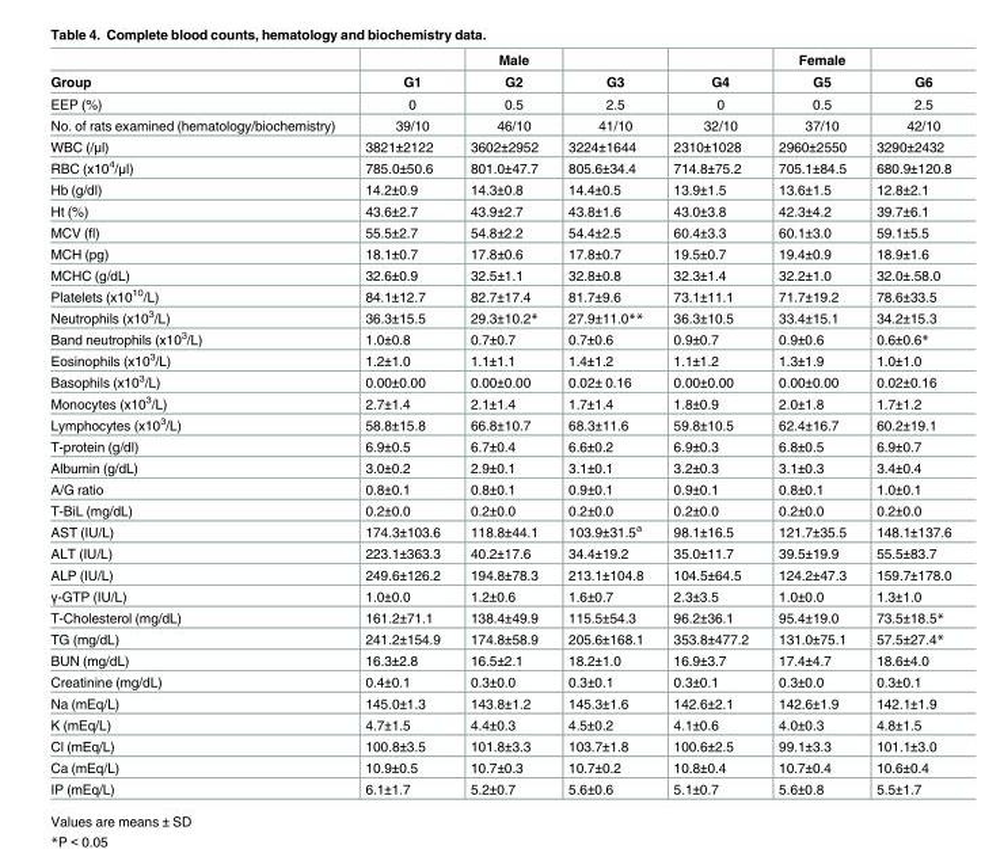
<table><thead><tr><td rowspan="2">Group</td><td rowspan="2">G1</td><td rowspan="2">Male G2</td><td rowspan="2">G3</td><td rowspan="2">G4</td><td rowspan="2">Female G5</td><td rowspan="2">G6</td></tr><tr></tr></thead><tbody><tr><td>EEP (%)</td><td>0</td><td>0.5</td><td>2.5</td><td>0</td><td>0.5</td><td>2.5</td></tr><tr><td>No. of rats examined (hematology/biochemistry)</td><td>39/10</td><td>46/10</td><td>41/10</td><td>32/10</td><td>37/10</td><td>42/10</td></tr><tr><td>WBC (/μl)</td><td>3821±2122</td><td>3602±2952</td><td>3224±1644</td><td>2310±1028</td><td>2960±2550</td><td>3290±2432</td></tr><tr><td>RBC (x10<sup>4</sup>/μl)</td><td>785.0±50.6</td><td>801.0±47.7</td><td>805.6±34.4</td><td>714.8±75.2</td><td>705.1±84.5</td><td>680.9±120.8</td></tr><tr><td>Hb (g/dl)</td><td>14.2±0.9</td><td>14.3±0.8</td><td>14.4±0.5</td><td>13.9±1.5</td><td>13.6±1.5</td><td>12.8±2.1</td></tr><tr><td>Ht (%)</td><td>43.6±2.7</td><td>43.9±2.7</td><td>43.8±1.6</td><td>43.0±3.8</td><td>42.3±4.2</td><td>39.7±6.1</td></tr><tr><td>MCV (fl)</td><td>55.5±2.7</td><td>54.8±2.2</td><td>54.4±2.5</td><td>60.4±3.3</td><td>60.1±3.0</td><td>59.1±5.5</td></tr><tr><td>MCH (pg)</td><td>18.1±0.7</td><td>17.8±0.6</td><td>17.8±0.7</td><td>19.5±0.7</td><td>19.4±0.9</td><td>18.9±1.6</td></tr><tr><td>MCHC (g/dL)</td><td>32.6±0.9</td><td>32.5±1.1</td><td>32.8±0.8</td><td>32.3±1.4</td><td>32.2±1.0</td><td>32.0±.58.0</td></tr><tr><td>Platelets (x10<sup>10</sup>/L)</td><td>84.1±12.7</td><td>82.7±17.4</td><td>81.7±9.6</td><td>73.1±11.1</td><td>71.7±19.2</td><td>78.6±33.5</td></tr><tr><td>Neutrophils (x10<sup>3</sup>/L)</td><td>36.3±15.5</td><td>29.3±10.2*</td><td>27.9±11.0**</td><td>36.3±10.5</td><td>33.4±15.1</td><td>34.2±15.3</td></tr><tr><td>Band neutrophils (x10<sup>3</sup>/L)</td><td>1.0±0.8</td><td>0.7±0.7</td><td>0.7±0.6</td><td>0.9±0.7</td><td>0.9±0.6</td><td>0.6±0.6*</td></tr><tr><td>Eosinophils (x10<sup>3</sup>/L)</td><td>1.2±1.0</td><td>1.1±1.1</td><td>1.4±1.2</td><td>1.1±1.2</td><td>1.3±1.9</td><td>1.0±1.0</td></tr><tr><td>Basophils (x10<sup>3</sup>/L)</td><td>0.00±0.00</td><td>0.00±0.00</td><td>0.02± 0.16</td><td>0.00±0.00</td><td>0.00±0.00</td><td>0.02±0.16</td></tr><tr><td>Monocytes (x10<sup>3</sup>/L)</td><td>2.7±1.4</td><td>2.1±1.4</td><td>1.7±1.4</td><td>1.8±0.9</td><td>2.0±1.8</td><td>1.7±1.2</td></tr><tr><td>Lymphocytes (x10<sup>3</sup>/L)</td><td>58.8±15.8</td><td>66.8±10.7</td><td>68.3±11.6</td><td>59.8±10.5</td><td>62.4±16.7</td><td>60.2±19.1</td></tr><tr><td>T-protein (g/dl)</td><td>6.9±0.5</td><td>6.7±0.4</td><td>6.6±0.2</td><td>6.9±0.3</td><td>6.8±0.5</td><td>6.9±0.7</td></tr><tr><td>Albumin (g/dL)</td><td>3.0±0.2</td><td>2.9±0.1</td><td>3.1±0.1</td><td>3.2±0.3</td><td>3.1±0.3</td><td>3.4±0.4</td></tr><tr><td>A/G ratio</td><td>0.8±0.1</td><td>0.8±0.1</td><td>0.9±0.1</td><td>0.9±0.1</td><td>0.8±0.1</td><td>1.0±0.1</td></tr><tr><td>T-BiL (mg/dL)</td><td>0.2±0.0</td><td>0.2±0.0</td><td>0.2±0.0</td><td>0.2±0.0</td><td>0.2±0.0</td><td>0.2±0.0</td></tr><tr><td>AST (IU/L)</td><td>174.3±103.6</td><td>118.8±44.1</td><td>103.9±31.5<sup>a</sup></td><td>98.1±16.5</td><td>121.7±35.5</td><td>148.1±137.6</td></tr><tr><td>ALT (IU/L)</td><td>223.1±363.3</td><td>40.2±17.6</td><td>34.4±19.2</td><td>35.0±11.7</td><td>39.5±19.9</td><td>55.5±83.7</td></tr><tr><td>ALP (IU/L)</td><td>249.6±126.2</td><td>194.8±78.3</td><td>213.1±104.8</td><td>104.5±64.5</td><td>124.2±47.3</td><td>159.7±178.0</td></tr><tr><td>γ-GTP (IU/L)</td><td>1.0±0.0</td><td>1.2±0.6</td><td>1.6±0.7</td><td>2.3±3.5</td><td>1.0±0.0</td><td>1.3±1.0</td></tr><tr><td>T-Cholesterol (mg/dL)</td><td>161.2±71.1</td><td>138.4±49.9</td><td>115.5±54.3</td><td>96.2±36.1</td><td>95.4±19.0</td><td>73.5±18.5*</td></tr><tr><td>TG (mg/dL)</td><td>241.2±154.9</td><td>174.8±58.9</td><td>205.6±168.1</td><td>353.8±477.2</td><td>131.0±75.1</td><td>57.5±27.4*</td></tr><tr><td>BUN (mg/dL)</td><td>16.3±2.8</td><td>16.5±2.1</td><td>18.2±1.0</td><td>16.9±3.7</td><td>17.4±4.7</td><td>18.6±4.0</td></tr><tr><td>Creatinine (mg/dL)</td><td>0.4±0.1</td><td>0.3±0.0</td><td>0.3±0.1</td><td>0.3±0.1</td><td>0.3±0.0</td><td>0.3±0.1</td></tr><tr><td>Na (mEq/L)</td><td>145.0±1.3</td><td>143.8±1.2</td><td>145.3±1.6</td><td>142.6±2.1</td><td>142.6±1.9</td><td>142.1±1.9</td></tr><tr><td>K (mEq/L)</td><td>4.7±1.5</td><td>4.4±0.3</td><td>4.5±0.2</td><td>4.1±0.6</td><td>4.0±0.3</td><td>4.8±1.5</td></tr><tr><td>Cl (mEq/L)</td><td>100.8±3.5</td><td>101.8±3.3</td><td>103.7±1.8</td><td>100.6±2.5</td><td>99.1±3.3</td><td>101.1±3.0</td></tr><tr><td>Ca (mEq/L)</td><td>10.9±0.5</td><td>10.7±0.3</td><td>10.7±0.2</td><td>10.8±0.4</td><td>10.7±0.4</td><td>10.6±0.4</td></tr><tr><td>IP (mEq/L)</td><td>6.1±1.7</td><td>5.2±0.7</td><td>5.6±0.6</td><td>5.1±0.7</td><td>5.6±0.8</td><td>5.5±1.7</td></tr></tbody></table>